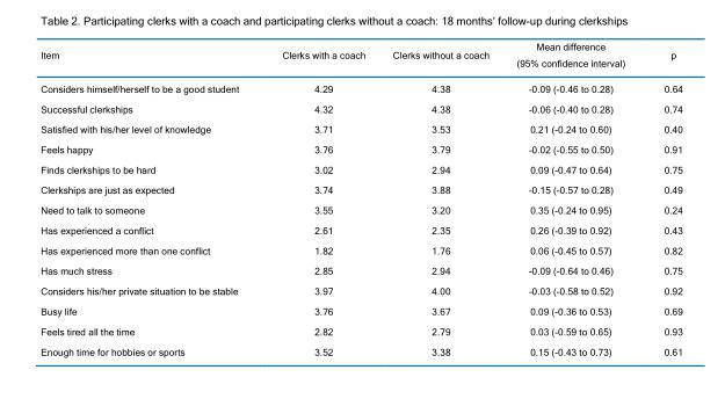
<table><thead><tr><td>Item</td><td>Clerks with a coach</td><td>Clerks without a coach</td><td>Mean difference (95% confidence interval)</td><td>p</td></tr></thead><tbody><tr><td>Considers himself/herself to be a good student</td><td>4.29</td><td>4.38</td><td>-0.09 (-0.46 to 0.28)</td><td>0.64</td></tr><tr><td>Successful clerkships</td><td>4.32</td><td>4.38</td><td>-0.06 (-0.40 to 0.28)</td><td>0.74</td></tr><tr><td>Satisfied with his/her level of knowledge</td><td>3.71</td><td>3.53</td><td>0.21 (-0.24 to 0.60)</td><td>0.40</td></tr><tr><td>Feels happy</td><td>3.76</td><td>3.79</td><td>-0.02 (-0.55 to 0.50)</td><td>0.91</td></tr><tr><td>Finds clerkships to be hard</td><td>3.02</td><td>2.94</td><td>0.09 (-0.47 to 0.64)</td><td>0.75</td></tr><tr><td>Clerkships are just as expected</td><td>3.74</td><td>3.88</td><td>-0.15 (-0.57 to 0.28)</td><td>0.49</td></tr><tr><td>Need to talk to someone</td><td>3.55</td><td>3.20</td><td>0.35 (-0.24 to 0.95)</td><td>0.24</td></tr><tr><td>Has experienced a conflict</td><td>2.61</td><td>2.35</td><td>0.26 (-0.39 to 0.92)</td><td>0.43</td></tr><tr><td>Has experienced more than one conflict</td><td>1.82</td><td>1.76</td><td>0.06 (-0.45 to 0.57)</td><td>0.82</td></tr><tr><td>Has much stress</td><td>2.85</td><td>2.94</td><td>-0.09 (-0.64 to 0.46)</td><td>0.75</td></tr><tr><td>Considers his/her private situation to be stable</td><td>3.97</td><td>4.00</td><td>-0.03 (-0.58 to 0.52)</td><td>0.92</td></tr><tr><td>Busy life</td><td>3.76</td><td>3.67</td><td>0.09 (-0.36 to 0.53)</td><td>0.69</td></tr><tr><td>Feels tired all the time</td><td>2.82</td><td>2.79</td><td>0.03 (-0.59 to 0.65)</td><td>0.93</td></tr><tr><td>Enough time for hobbies or sports</td><td>3.52</td><td>3.38</td><td>0.15 (-0.43 to 0.73)</td><td>0.61</td></tr></tbody></table>